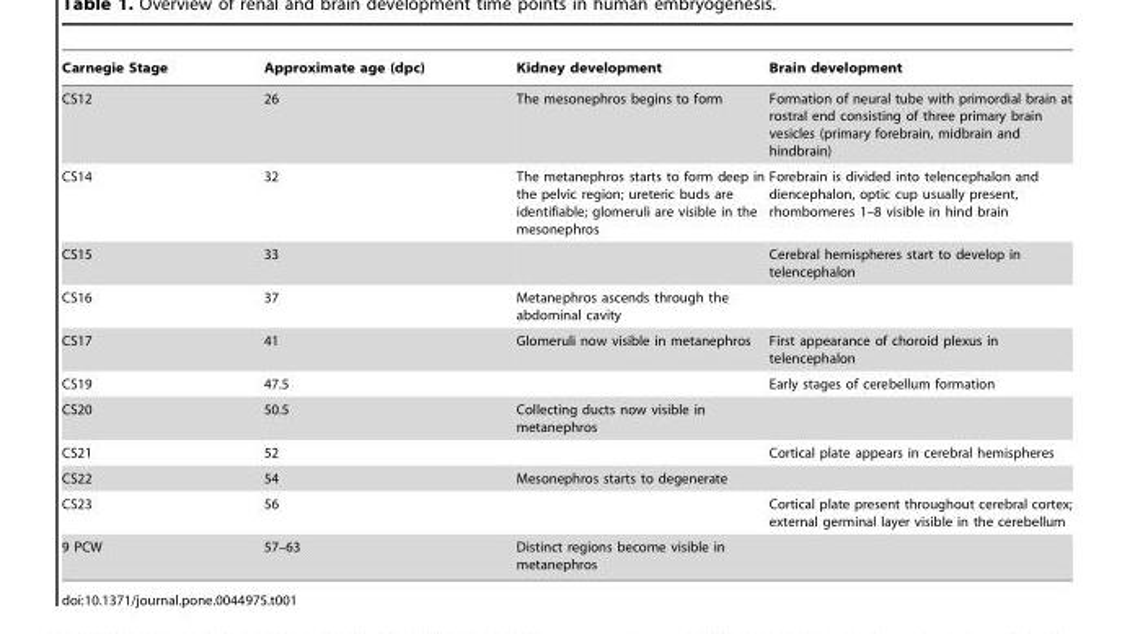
<table><thead><tr><td>Carnegie Stage</td><td>Approximate age (dpc)</td><td>Kidney development</td><td>Brain development</td></tr></thead><tbody><tr><td>CS12</td><td>26</td><td>The mesonephros begins to form</td><td>Formation of neural tube with primordial brain at rostral end consisting of three primary brain vesicles (primary forebrain, midbrain and hindbrain)</td></tr><tr><td>CS14</td><td>32</td><td>The metanephros starts to form deep in the pelvic region; ureteric buds are identifiable; glomeruli are visible in the mesonephros</td><td>Forebrain is divided into telencephalon and diencephalon, optic cup usually present, rhombomeres 1–8 visible in hind brain</td></tr><tr><td>CS15</td><td>33</td><td></td><td>Cerebral hemispheres start to develop in telencephalon</td></tr><tr><td>CS16</td><td>37</td><td>Metanephros ascends through the abdominal cavity</td><td></td></tr><tr><td>CS17</td><td>41</td><td>Glomeruli now visible in metanephros</td><td>First appearance of choroid plexus in telencephalon</td></tr><tr><td>CS19</td><td>47.5</td><td></td><td>Early stages of cerebellum formation</td></tr><tr><td>CS20</td><td>50.5</td><td>Collecting ducts now visible in metanephros</td><td></td></tr><tr><td>CS21</td><td>52</td><td></td><td>Cortical plate appears in cerebral hemispheres</td></tr><tr><td>CS22</td><td>54</td><td>Mesonephros starts to degenerate</td><td></td></tr><tr><td>CS23</td><td>56</td><td></td><td>Cortical plate present throughout cerebral cortex; external germinal layer visible in the cerebellum</td></tr><tr><td>9 PCW</td><td>57–63</td><td>Distinct regions become visible in metanephros</td><td></td></tr></tbody></table>